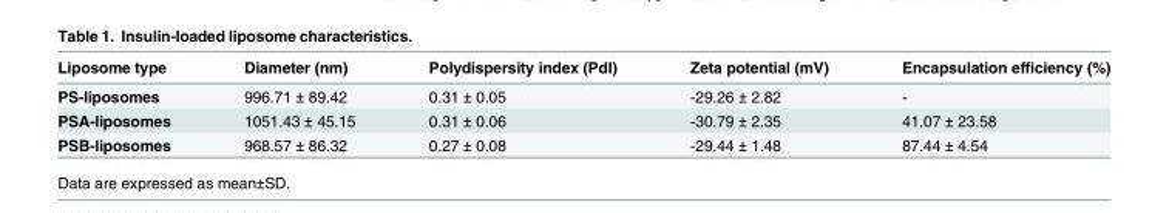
<table><thead><tr><td>Liposome type</td><td>Diameter (nm)</td><td>Polydispersity index (PdI)</td><td>Zeta potential (mV)</td><td>Encapsulation efficiency (%)</td></tr></thead><tbody><tr><td>PS-liposomes</td><td>996.71 ± 89.42</td><td>0.31 ± 0.05</td><td>-29.26 ± 2.82</td><td>-</td></tr><tr><td>PSA-liposomes</td><td>1051.43 ± 45.15</td><td>0.31 ± 0.06</td><td>-30.79 ± 2.35</td><td>41.07 ± 23.58</td></tr><tr><td>PSB-liposomes</td><td>968.57 ± 86.32</td><td>0.27 ± 0.08</td><td>-29.44 ± 1.48</td><td>87.44 ± 4.54</td></tr></tbody></table>